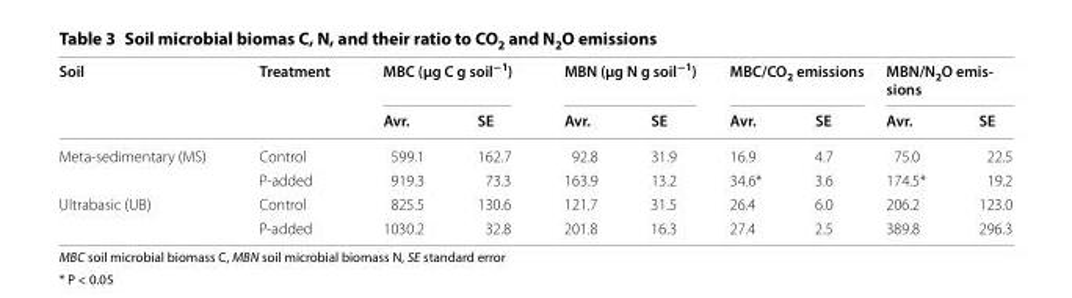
<table><thead><tr><td rowspan="2">Soil</td><td rowspan="2">Treatment</td><td colspan="2">MBC (μg C g soil<sup>−1</sup>)</td><td colspan="2">MBN (μg N g soil<sup>−1</sup>)</td><td colspan="2">MBC/CO<sub>2</sub> emissions</td><td colspan="2">MBN/N2O emis- sions</td></tr><tr><td>Avr.</td><td>SE</td><td>Avr.</td><td>SE</td><td>Avr.</td><td>SE</td><td>Avr.</td><td>SE</td></tr></thead><tbody><tr><td rowspan="2">Meta-sedimentary (MS)</td><td>Control</td><td>599.1</td><td>162.7</td><td>92.8</td><td>31.9</td><td>16.9</td><td>4.7</td><td>75.0</td><td>22.5</td></tr><tr><td>P-added</td><td>919.3</td><td>73.3</td><td>163.9</td><td>13.2</td><td>34.6*</td><td>3.6</td><td>174.5*</td><td>19.2</td></tr><tr><td rowspan="2">Ultrabasic (UB)</td><td>Control</td><td>825.5</td><td>130.6</td><td>121.7</td><td>31.5</td><td>26.4</td><td>6.0</td><td>206.2</td><td>123.0</td></tr><tr><td>P-added</td><td>1030.2</td><td>32.8</td><td>201.8</td><td>16.3</td><td>27.4</td><td>2.5</td><td>389.8</td><td>296.3</td></tr></tbody></table>